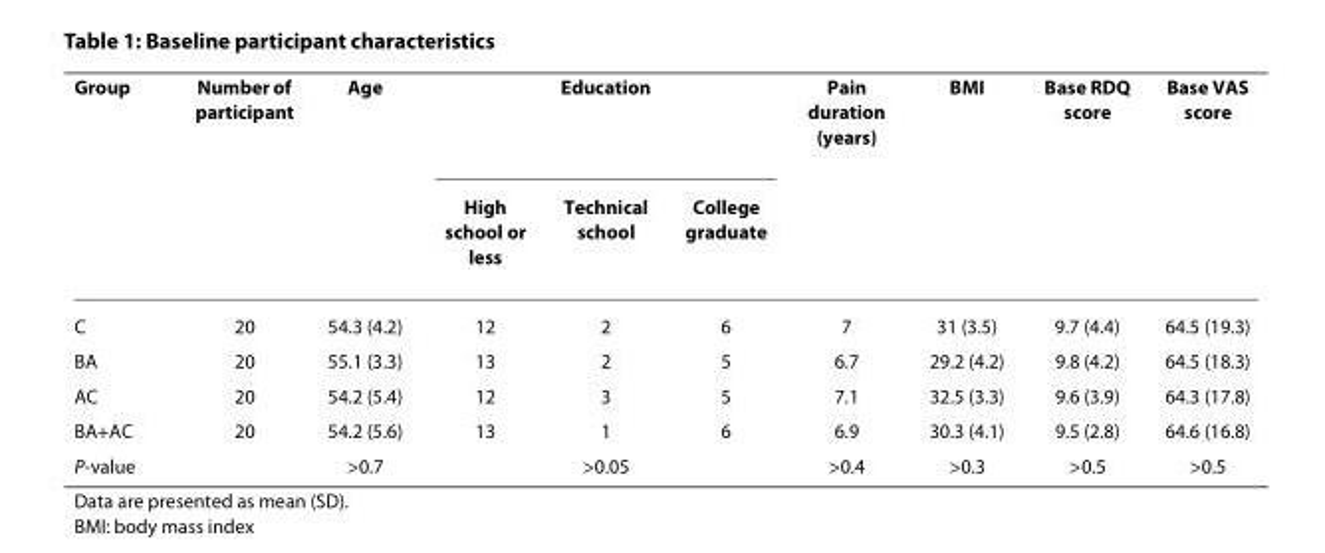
<table><thead><tr><td rowspan="2">Group</td><td rowspan="2">Number of participant</td><td rowspan="2">Age</td><td colspan="3">Education</td><td rowspan="2">Pain duration (years)</td><td rowspan="2">BMI</td><td rowspan="2">Base RDQ score</td><td rowspan="2">Base VAS score</td></tr><tr><td>High school or less</td><td>Technical school</td><td>College graduate</td></tr></thead><tbody><tr><td>C</td><td>20</td><td>54.3 (4.2)</td><td>12</td><td>2</td><td>6</td><td>7</td><td>31 (3.5)</td><td>9.7 (4.4)</td><td>64.5 (19.3)</td></tr><tr><td>BA</td><td>20</td><td>55.1 (3.3)</td><td>13</td><td>2</td><td>5</td><td>6.7</td><td>29.2 (4.2)</td><td>9.8 (4.2)</td><td>64.5 (18.3)</td></tr><tr><td>AC</td><td>20</td><td>54.2 (5.4)</td><td>12</td><td>3</td><td>5</td><td>7.1</td><td>32.5 (3.3)</td><td>9.6 (3.9)</td><td>64.3 (17.8)</td></tr><tr><td>BA+AC</td><td>20</td><td>54.2 (5.6)</td><td>13</td><td>1</td><td>6</td><td>6.9</td><td>30.3 (4.1)</td><td>9.5 (2.8)</td><td>64.6 (16.8)</td></tr><tr><td>P-value</td><td></td><td>&gt;0.7</td><td></td><td>&gt;0.05</td><td></td><td>&gt;0.4</td><td>&gt;0.3</td><td>&gt;0.5</td><td>&gt;0.5</td></tr></tbody></table>